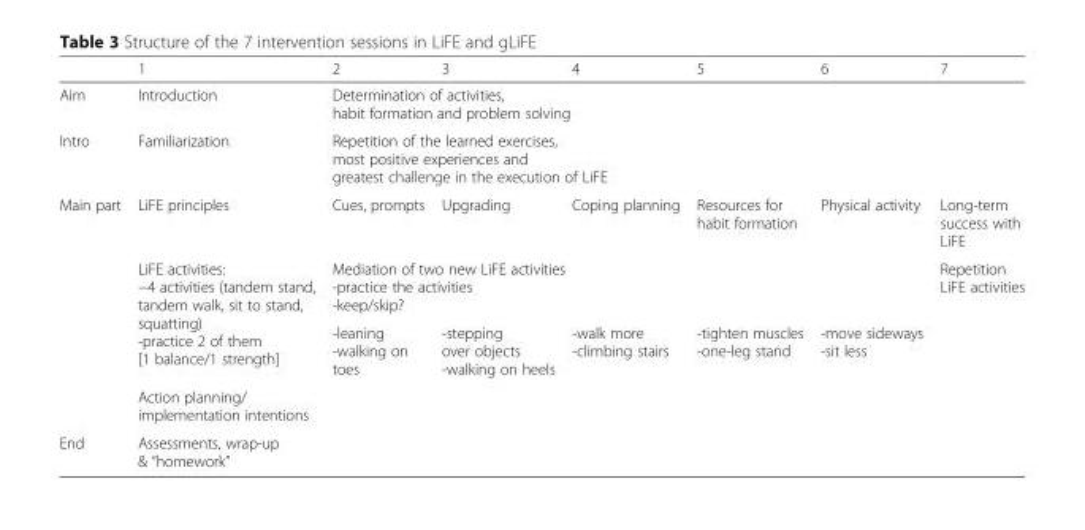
<table><thead><tr><td></td><td>1</td><td>2</td><td>3</td><td>4</td><td>5</td><td>6</td><td>7</td></tr></thead><tbody><tr><td>Aim</td><td>Introduction</td><td colspan="6">Determination of activities, habit formation and problem solving</td></tr><tr><td>Intro</td><td>Familiarization</td><td colspan="6">Repetition of the learned exercises, most positive experiences and greatest challenge in the execution of LiFE</td></tr><tr><td rowspan="4">Main part</td><td>LiFE principles</td><td>Cues, prompts</td><td>Upgrading</td><td>Coping planning</td><td>Resources for habit formation</td><td>Physical activity</td><td>Long-term success with LiFE</td></tr><tr><td rowspan="2">LiFE activities: −4 activities (tandem stand, tandem walk, sit to stand, squatting) -practice 2 of them [1 balance/1 strength]</td><td colspan="5">Mediation of two new LiFE activities -practice the activities -keep/skip?</td><td rowspan="2">Repetition LiFE activities</td></tr><tr><td>-leaning -walking on toes</td><td>-stepping over objects -walking on heels</td><td>-walk more -climbing stairs</td><td>-tighten muscles -one-leg stand</td><td>-move sideways -sit less</td></tr><tr><td colspan="7">Action planning/ implementation intentions</td></tr><tr><td>End</td><td colspan="7">Assessments, wrap-up &amp; “homework”</td></tr></tbody></table>